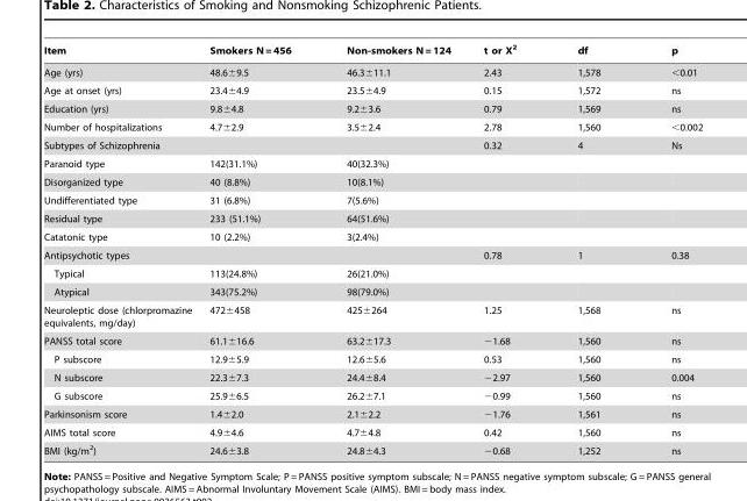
<table><thead><tr><td>Item</td><td>Smokers N = 456</td><td>Non-smokers N = 124</td><td>t or X<sup>2</sup></td><td>df</td><td>p</td></tr></thead><tbody><tr><td>Age (yrs)</td><td>48.6±9.5</td><td>46.3±11.1</td><td>2.43</td><td>1,578</td><td>&lt;0.01</td></tr><tr><td>Age at onset (yrs)</td><td>23.4±4.9</td><td>23.5±4.9</td><td>0.15</td><td>1,572</td><td>ns</td></tr><tr><td>Education (yrs)</td><td>9.8±4.8</td><td>9.2±3.6</td><td>0.79</td><td>1,569</td><td>ns</td></tr><tr><td>Number of hospitalizations</td><td>4.7±2.9</td><td>3.5±2.4</td><td>2.78</td><td>1,560</td><td>&lt;0.002</td></tr><tr><td colspan="3">Subtypes of Schizophrenia</td><td>0.32</td><td>4</td><td>Ns</td></tr><tr><td>Paranoid type</td><td>142(31.1%)</td><td>40(32.3%)</td><td></td><td></td><td></td></tr><tr><td>Disorganized type</td><td>40 (8.8%)</td><td>10(8.1%)</td><td></td><td></td><td></td></tr><tr><td>Undifferentiated type</td><td>31 (6.8%)</td><td>7(5.6%)</td><td></td><td></td><td></td></tr><tr><td>Residual type</td><td>233 (51.1%)</td><td>64(51.6%)</td><td></td><td></td><td></td></tr><tr><td>Catatonic type</td><td>10 (2.2%)</td><td>3(2.4%)</td><td></td><td></td><td></td></tr><tr><td colspan="3">Antipsychotic types</td><td>0.78</td><td>1</td><td>0.38</td></tr><tr><td>Typical</td><td>113(24.8%)</td><td>26(21.0%)</td><td></td><td></td><td></td></tr><tr><td>Atypical</td><td>343(75.2%)</td><td>98(79.0%)</td><td></td><td></td><td></td></tr><tr><td>Neuroleptic dose (chlorpromazine equivalents, mg/day)</td><td>472±458</td><td>425±264</td><td>1.25</td><td>1,568</td><td>ns</td></tr><tr><td>PANSS total score</td><td>61.1±16.6</td><td>63.2±17.3</td><td>−1.68</td><td>1,560</td><td>ns</td></tr><tr><td>P subscore</td><td>12.9±5.9</td><td>12.6±5.6</td><td>0.53</td><td>1,560</td><td>ns</td></tr><tr><td>N subscore</td><td>22.3±7.3</td><td>24.4±8.4</td><td>−2.97</td><td>1,560</td><td>0.004</td></tr><tr><td>G subscore</td><td>25.9±6.5</td><td>26.2±7.1</td><td>−0.99</td><td>1,560</td><td>ns</td></tr><tr><td>Parkinsonism score</td><td>1.4±2.0</td><td>2.1±2.2</td><td>−1.76</td><td>1,561</td><td>ns</td></tr><tr><td>AIMS total score</td><td>4.9±4.6</td><td>4.7±4.8</td><td>0.42</td><td>1,560</td><td>ns</td></tr><tr><td>BMI (kg/m<sup>2</sup>)</td><td>24.6±3.8</td><td>24.8±4.3</td><td>−0.68</td><td>1,252</td><td>ns</td></tr></tbody></table>